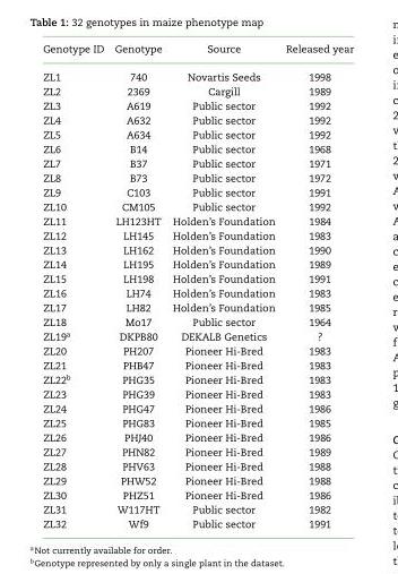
<table><thead><tr><td>Genotype ID</td><td>Genotype</td><td>Source</td><td>Released year</td></tr></thead><tbody><tr><td>ZL1</td><td>740</td><td>Novartis Seeds</td><td>1998</td></tr><tr><td>ZL2</td><td>2369</td><td>Cargill</td><td>1989</td></tr><tr><td>ZL3</td><td>A619</td><td>Public sector</td><td>1992</td></tr><tr><td>ZL4</td><td>A632</td><td>Public sector</td><td>1992</td></tr><tr><td>ZL5</td><td>A634</td><td>Public sector</td><td>1992</td></tr><tr><td>ZL6</td><td>B14</td><td>Public sector</td><td>1968</td></tr><tr><td>ZL7</td><td>B37</td><td>Public sector</td><td>1971</td></tr><tr><td>ZL8</td><td>B73</td><td>Public sector</td><td>1972</td></tr><tr><td>ZL9</td><td>C103</td><td>Public sector</td><td>1991</td></tr><tr><td>ZL10</td><td>CM105</td><td>Public sector</td><td>1992</td></tr><tr><td>ZL11</td><td>LH123HT</td><td>Holden’s Foundation</td><td>1984</td></tr><tr><td>ZL12</td><td>LH145</td><td>Holden’s Foundation</td><td>1983</td></tr><tr><td>ZL13</td><td>LH162</td><td>Holden’s Foundation</td><td>1990</td></tr><tr><td>ZL14</td><td>LH195</td><td>Holden’s Foundation</td><td>1989</td></tr><tr><td>ZL15</td><td>LH198</td><td>Holden’s Foundation</td><td>1991</td></tr><tr><td>ZL16</td><td>LH74</td><td>Holden’s Foundation</td><td>1983</td></tr><tr><td>ZL17</td><td>LH82</td><td>Holden’s Foundation</td><td>1985</td></tr><tr><td>ZL18</td><td>Mo17</td><td>Public sector</td><td>1964</td></tr><tr><td>ZL19<sup>a</sup></td><td>DKPB80</td><td>DEKALB Genetics</td><td>?</td></tr><tr><td>ZL20</td><td>PH207</td><td>Pioneer Hi-Bred</td><td>1983</td></tr><tr><td>ZL21</td><td>PHB47</td><td>Pioneer Hi-Bred</td><td>1983</td></tr><tr><td>ZL22<sup>b</sup></td><td>PHG35</td><td>Pioneer Hi-Bred</td><td>1983</td></tr><tr><td>ZL23</td><td>PHG39</td><td>Pioneer Hi-Bred</td><td>1983</td></tr><tr><td>ZL24</td><td>PHG47</td><td>Pioneer Hi-Bred</td><td>1986</td></tr><tr><td>ZL25</td><td>PHG83</td><td>Pioneer Hi-Bred</td><td>1985</td></tr><tr><td>ZL26</td><td>PHJ40</td><td>Pioneer Hi-Bred</td><td>1986</td></tr><tr><td>ZL27</td><td>PHN82</td><td>Pioneer Hi-Bred</td><td>1989</td></tr><tr><td>ZL28</td><td>PHV63</td><td>Pioneer Hi-Bred</td><td>1988</td></tr><tr><td>ZL29</td><td>PHW52</td><td>Pioneer Hi-Bred</td><td>1988</td></tr><tr><td>ZL30</td><td>PHZ51</td><td>Pioneer Hi-Bred</td><td>1986</td></tr><tr><td>ZL31</td><td>W117HT</td><td>Public sector</td><td>1982</td></tr><tr><td>ZL32</td><td>Wf9</td><td>Public sector</td><td>1991</td></tr></tbody></table>